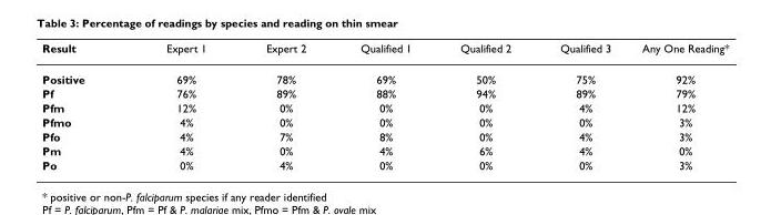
<table><thead><tr><td>Result</td><td>Expert 1</td><td>Expert 2</td><td>Qualified 1</td><td>Qualified 2</td><td>Qualified 3</td><td>Any One Reading*</td></tr></thead><tbody><tr><td>Positive</td><td>69%</td><td>78%</td><td>69%</td><td>50%</td><td>75%</td><td>92%</td></tr><tr><td>Pf</td><td>76%</td><td>89%</td><td>88%</td><td>94%</td><td>89%</td><td>79%</td></tr><tr><td>Pfm</td><td>12%</td><td>0%</td><td>0%</td><td>0%</td><td>4%</td><td>12%</td></tr><tr><td>Pfmo</td><td>4%</td><td>0%</td><td>0%</td><td>0%</td><td>0%</td><td>3%</td></tr><tr><td>Pfo</td><td>4%</td><td>7%</td><td>8%</td><td>0%</td><td>4%</td><td>3%</td></tr><tr><td>Pm</td><td>4%</td><td>0%</td><td>4%</td><td>6%</td><td>4%</td><td>0%</td></tr><tr><td>Po</td><td>0%</td><td>4%</td><td>0%</td><td>0%</td><td>0%</td><td>3%</td></tr></tbody></table>